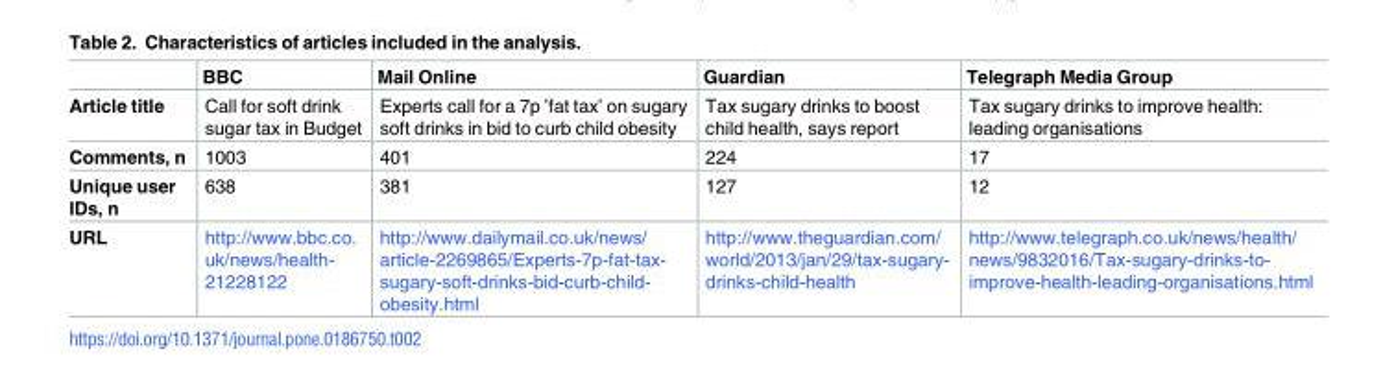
<table><thead><tr><td></td><td>BBC</td><td>Mail Online</td><td>Guardian</td><td>Telegraph Media Group</td></tr></thead><tbody><tr><td>Article title</td><td>Call for soft drink sugar tax in Budget</td><td>Experts call for a 7p ’fat tax’ on sugary soft drinks in bid to curb child obesity</td><td>Tax sugary drinks to boost child health, says report</td><td>Tax sugary drinks to improve health: leading organisations</td></tr><tr><td>Comments, n</td><td>1003</td><td>401</td><td>224</td><td>17</td></tr><tr><td>Unique user IDs, n</td><td>638</td><td>381</td><td>127</td><td>12</td></tr><tr><td>URL</td><td>http://www.bbc.co. uk/news/health- 21228122</td><td>http://www.dailymail.co.uk/news/ article-2269865/Experts-7p-fat-tax- sugary-soft-drinks-bid-curb-child- obesity.html</td><td>http://www.theguardian.com/ world/2013/jan/29/tax-sugary- drinks-child-health</td><td>http://www.telegraph.co.uk/news/health/ news/9832016/Tax-sugary-drinks-to- improve-health-leading-organisations.html</td></tr></tbody></table>